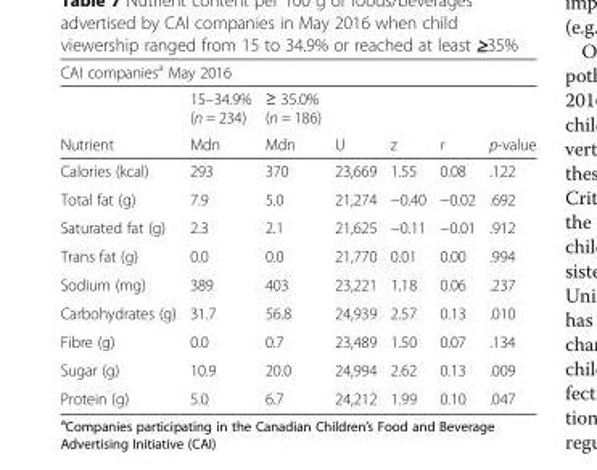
<table><thead><tr><td colspan="7">CAI companies<sup>a</sup> May 2016</td></tr><tr><td rowspan="2">Nutrient</td><td rowspan="2">15–34.9% (n = 234) Mdn</td><td rowspan="2">≥ 35.0% (n = 186) Mdn</td><td rowspan="2">U</td><td rowspan="2">z</td><td rowspan="2">r</td><td rowspan="2">p-value</td></tr><tr></tr></thead><tbody><tr><td>Calories (kcal)</td><td>293</td><td>370</td><td>23,669</td><td>1.55</td><td>0.08</td><td>.122</td></tr><tr><td>Total fat (g)</td><td>7.9</td><td>5.0</td><td>21,274</td><td>−0.40</td><td>−0.02</td><td>.692</td></tr><tr><td>Saturated fat (g)</td><td>2.3</td><td>2.1</td><td>21,625</td><td>−0.11</td><td>−0.01</td><td>.912</td></tr><tr><td>Trans fat (g)</td><td>0.0</td><td>0.0</td><td>21,770</td><td>0.01</td><td>0.00</td><td>.994</td></tr><tr><td>Sodium (mg)</td><td>389</td><td>403</td><td>23,221</td><td>1.18</td><td>0.06</td><td>.237</td></tr><tr><td>Carbohydrates (g)</td><td>31.7</td><td>56.8</td><td>24,939</td><td>2.57</td><td>0.13</td><td>.010</td></tr><tr><td>Fibre (g)</td><td>0.0</td><td>0.7</td><td>23,489</td><td>1.50</td><td>0.07</td><td>.134</td></tr><tr><td>Sugar (g)</td><td>10.9</td><td>20.0</td><td>24,994</td><td>2.62</td><td>0.13</td><td>.009</td></tr><tr><td>Protein (g)</td><td>5.0</td><td>6.7</td><td>24,212</td><td>1.99</td><td>0.10</td><td>.047</td></tr></tbody></table>